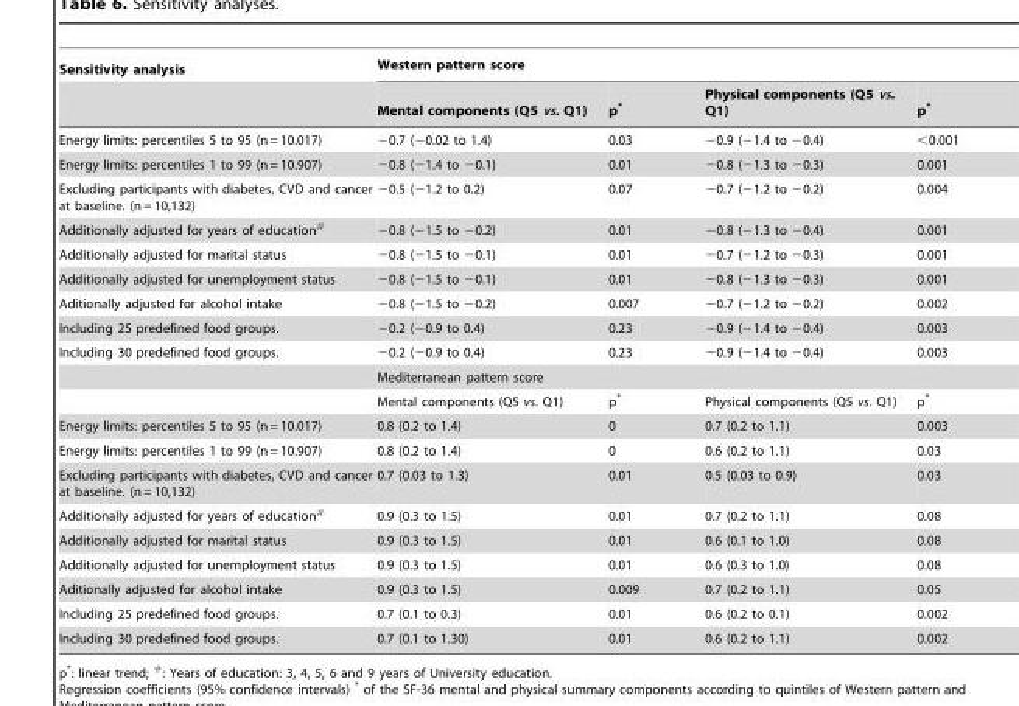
<table><thead><tr><td rowspan="2">Sensitivity analysis</td><td colspan="4">Western pattern score</td></tr><tr><td>Mental components (Q5 vs. Q1)</td><td>p*</td><td>Physical components (Q5 vs. Q1)</td><td>p*</td></tr></thead><tbody><tr><td>Energy limits: percentiles 5 to 95 (n = 10.017)</td><td>−0.7 (−0.02 to 1.4)</td><td>0.03</td><td>−0.9 (−1.4 to −0.4)</td><td>&lt;0.001</td></tr><tr><td>Energy limits: percentiles 1 to 99 (n = 10.907)</td><td>−0.8 (−1.4 to −0.1)</td><td>0.01</td><td>−0.8 (−1.3 to −0.3)</td><td>0.001</td></tr><tr><td>Excluding participants with diabetes, CVD and cancer at baseline. (n = 10,132)</td><td>−0.5 (−1.2 to 0.2)</td><td>0.07</td><td>−0.7 (−1.2 to −0.2)</td><td>0.004</td></tr><tr><td>Additionally adjusted for years of education<sup>#</sup></td><td>−0.8 (−1.5 to −0.2)</td><td>0.01</td><td>−0.8 (−1.3 to −0.4)</td><td>0.001</td></tr><tr><td>Additionally adjusted for marital status</td><td>−0.8 (−1.5 to −0.1)</td><td>0.01</td><td>−0.7 (−1.2 to −0.3)</td><td>0.001</td></tr><tr><td>Additionally adjusted for unemployment status</td><td>−0.8 (−1.5 to −0.1)</td><td>0.01</td><td>−0.8 (−1.3 to −0.3)</td><td>0.001</td></tr><tr><td>Aditionally adjusted for alcohol intake</td><td>−0.8 (−1.5 to −0.2)</td><td>0.007</td><td>−0.7 (−1.2 to −0.2)</td><td>0.002</td></tr><tr><td>Including 25 predefined food groups.</td><td>−0.2 (−0.9 to 0.4)</td><td>0.23</td><td>−0.9 (−1.4 to −0.4)</td><td>0.003</td></tr><tr><td rowspan="3">Including 30 predefined food groups.</td><td>−0.2 (−0.9 to 0.4)</td><td>0.23</td><td>−0.9 (−1.4 to −0.4)</td><td>0.003</td></tr><tr><td colspan="4">Mediterranean pattern score</td></tr><tr><td>Mental components (Q5 vs. Q1)</td><td>p*</td><td>Physical components (Q5 vs. Q1)</td><td>p*</td></tr><tr><td>Energy limits: percentiles 5 to 95 (n = 10.017)</td><td>0.8 (0.2 to 1.4)</td><td>0</td><td>0.7 (0.2 to 1.1)</td><td>0.003</td></tr><tr><td>Energy limits: percentiles 1 to 99 (n = 10.907)</td><td>0.8 (0.2 to 1.4)</td><td>0</td><td>0.6 (0.2 to 1.1)</td><td>0.03</td></tr><tr><td>Excluding participants with diabetes, CVD and cancer at baseline. (n = 10,132)</td><td>0.7 (0.03 to 1.3)</td><td>0.01</td><td>0.5 (0.03 to 0.9)</td><td>0.03</td></tr><tr><td>Additionally adjusted for years of education<sup>#</sup></td><td>0.9 (0.3 to 1.5)</td><td>0.01</td><td>0.7 (0.2 to 1.1)</td><td>0.08</td></tr><tr><td>Additionally adjusted for marital status</td><td>0.9 (0.3 to 1.5)</td><td>0.01</td><td>0.6 (0.1 to 1.0)</td><td>0.08</td></tr><tr><td>Additionally adjusted for unemployment status</td><td>0.9 (0.3 to 1.5)</td><td>0.01</td><td>0.6 (0.3 to 1.0)</td><td>0.08</td></tr><tr><td>Aditionally adjusted for alcohol intake</td><td>0.9 (0.3 to 1.5)</td><td>0.009</td><td>0.7 (0.2 to 1.1)</td><td>0.05</td></tr><tr><td>Including 25 predefined food groups.</td><td>0.7 (0.1 to 0.3)</td><td>0.01</td><td>0.6 (0.2 to 0.1)</td><td>0.002</td></tr><tr><td>Including 30 predefined food groups.</td><td>0.7 (0.1 to 1.30)</td><td>0.01</td><td>0.6 (0.2 to 1.1)</td><td>0.002</td></tr></tbody></table>